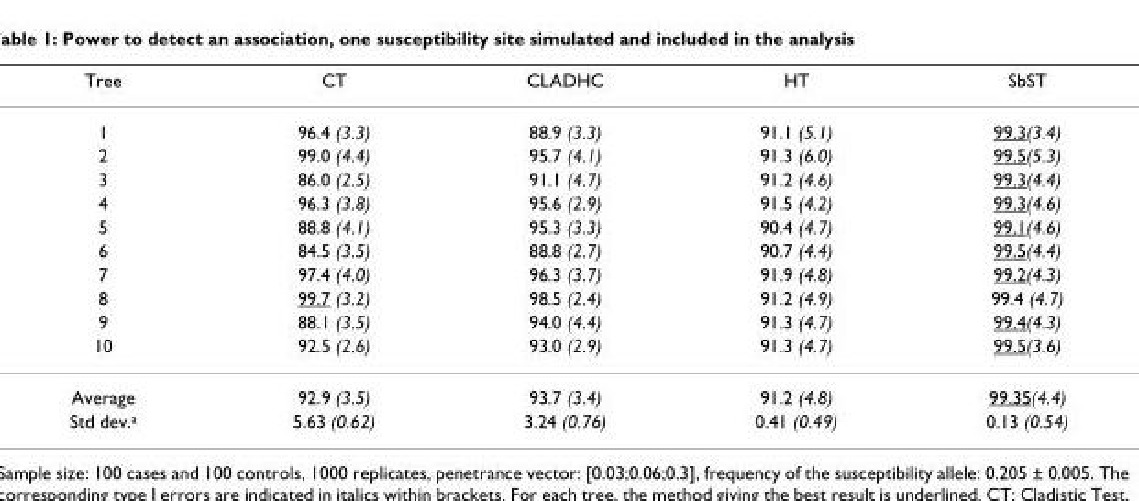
<table><thead><tr><td>Tree</td><td>CT</td><td>CLADHC</td><td>HT</td><td>SbST</td></tr></thead><tbody><tr><td>1</td><td>96.4 (3.3)</td><td>88.9 (3.3)</td><td>91.1 (5.1)</td><td>99.3(3.4)</td></tr><tr><td>2</td><td>99.0 (4.4)</td><td>95.7 (4.1)</td><td>91.3 (6.0)</td><td>99.5(5.3)</td></tr><tr><td>3</td><td>86.0 (2.5)</td><td>91.1 (4.7)</td><td>91.2 (4.6)</td><td>99.3(4.4)</td></tr><tr><td>4</td><td>96.3 (3.8)</td><td>95.6 (2.9)</td><td>91.5 (4.2)</td><td>99.3(4.6)</td></tr><tr><td>5</td><td>88.8 (4.1)</td><td>95.3 (3.3)</td><td>90.4 (4.7)</td><td>99.1(4.6)</td></tr><tr><td>6</td><td>84.5 (3.5)</td><td>88.8 (2.7)</td><td>90.7 (4.4)</td><td>99.5(4.4)</td></tr><tr><td>7</td><td>97.4 (4.0)</td><td>96.3 (3.7)</td><td>91.9 (4.8)</td><td>99.2(4.3)</td></tr><tr><td>8</td><td>99.7 (3.2)</td><td>98.5 (2.4)</td><td>91.2 (4.9)</td><td>99.4 (4.7)</td></tr><tr><td>9</td><td>88.1 (3.5)</td><td>94.0 (4.4)</td><td>91.3 (4.7)</td><td>99.4(4.3)</td></tr><tr><td>10</td><td>92.5 (2.6)</td><td>93.0 (2.9)</td><td>91.3 (4.7)</td><td>99.5(3.6)</td></tr><tr><td>Average</td><td>92.9 (3.5)</td><td>93.7 (3.4)</td><td>91.2 (4.8)</td><td>99.35(4.4)</td></tr><tr><td>Std dev.<sup>a</sup></td><td>5.63 (0.62)</td><td>3.24 (0.76)</td><td>0.41 (0.49)</td><td>0.13 (0.54)</td></tr></tbody></table>